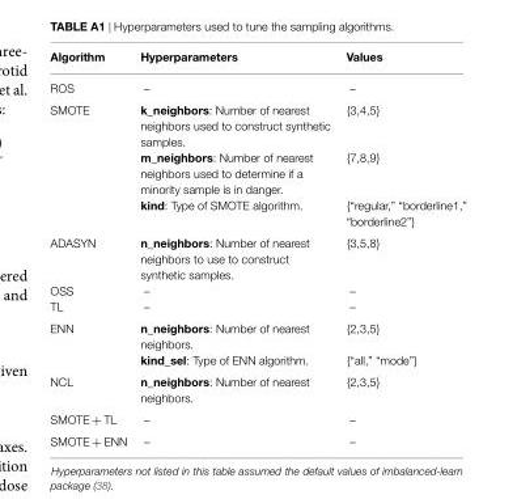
<table><thead><tr><td>Algorithm</td><td>Hyperparameters</td><td>Values</td></tr></thead><tbody><tr><td>ROS</td><td>–</td><td>–</td></tr><tr><td rowspan="3">SMOTE</td><td>k_neighbors: Number of nearest neighbors used to construct synthetic samples.</td><td>{3,4,5}</td></tr><tr><td>m_neighbors: Number of nearest neighbors used to determine if a minority sample is in danger.</td><td>{7,8,9}</td></tr><tr><td>kind: Type of SMOTE algorithm.</td><td>{“regular,” “borderline1,” “borderline2”}</td></tr><tr><td>ADASYN</td><td>n_neighbors: Number of nearest neighbors to use to construct synthetic samples.</td><td>{3,5,8}</td></tr><tr><td>OSS</td><td>–</td><td>–</td></tr><tr><td>TL</td><td>–</td><td>–</td></tr><tr><td rowspan="2">ENN</td><td>n_neighbors: Number of nearest neighbors.</td><td>{2,3,5}</td></tr><tr><td>kind_sel: Type of ENN algorithm.</td><td>{“all,” “mode”}</td></tr><tr><td>NCL</td><td>n_neighbors: Number of nearest neighbors.</td><td>{2,3,5}</td></tr><tr><td>SMOTE + TL</td><td>–</td><td>–</td></tr><tr><td>SMOTE + ENN</td><td>–</td><td>–</td></tr></tbody></table>